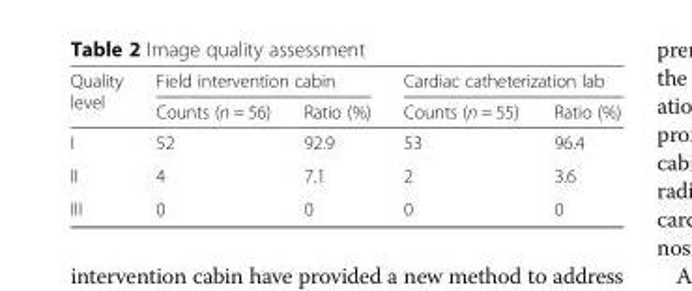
<table><thead><tr><td rowspan="2">Quality level</td><td colspan="2">Field intervention cabin</td><td colspan="2">Cardiac catheterization lab</td></tr><tr><td>Counts (n = 56)</td><td>Ratio (%)</td><td>Counts (n = 55)</td><td>Ratio (%)</td></tr></thead><tbody><tr><td>I</td><td>52</td><td>92.9</td><td>53</td><td>96.4</td></tr><tr><td>II</td><td>4</td><td>7.1</td><td>2</td><td>3.6</td></tr><tr><td>III</td><td>0</td><td>0</td><td>0</td><td>0</td></tr></tbody></table>